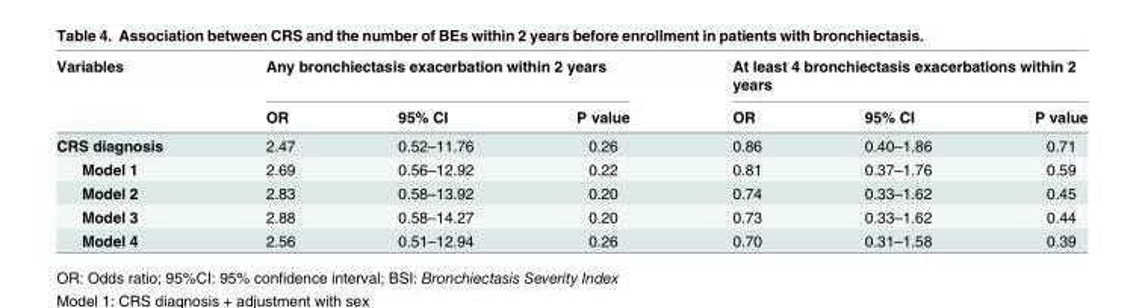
<table><thead><tr><td rowspan="2">Variables</td><td colspan="3">Any bronchiectasis exacerbation within 2 years</td><td colspan="3">At least 4 bronchiectasis exacerbations within 2 years</td></tr><tr><td>OR</td><td>95% CI</td><td>P value</td><td>OR</td><td>95% CI</td><td>P value</td></tr></thead><tbody><tr><td>CRS diagnosis</td><td>2.47</td><td>0.52–11.76</td><td>0.26</td><td>0.86</td><td>0.40–1.86</td><td>0.71</td></tr><tr><td>Model 1</td><td>2.69</td><td>0.56–12.92</td><td>0.22</td><td>0.81</td><td>0.37–1.76</td><td>0.59</td></tr><tr><td>Model 2</td><td>2.83</td><td>0.58–13.92</td><td>0.20</td><td>0.74</td><td>0.33–1.62</td><td>0.45</td></tr><tr><td>Model 3</td><td>2.88</td><td>0.58–14.27</td><td>0.20</td><td>0.73</td><td>0.33–1.62</td><td>0.44</td></tr><tr><td>Model 4</td><td>2.56</td><td>0.51–12.94</td><td>0.26</td><td>0.70</td><td>0.31–1.58</td><td>0.39</td></tr></tbody></table>